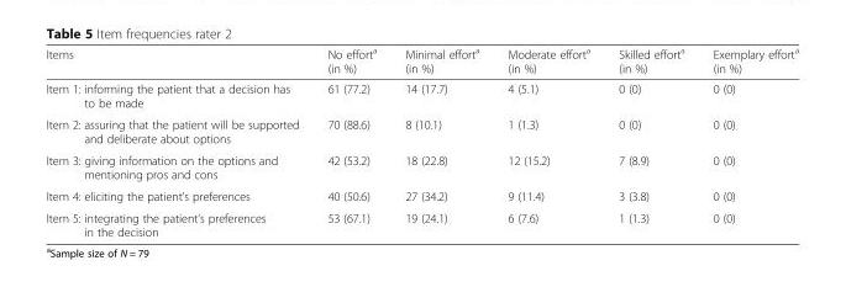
<table><thead><tr><td>Items</td><td>No effort<sup>a</sup> (in %)</td><td>Minimal effort<sup>a</sup> (in %)</td><td>Moderate effort<sup>a</sup> (in %)</td><td>Skilled effort<sup>a</sup> (in %)</td><td>Exemplary effort<sup>a</sup> (in %)</td></tr></thead><tbody><tr><td>Item 1: informing the patient that a decision has to be made</td><td>61 (77.2)</td><td>14 (17.7)</td><td>4 (5.1)</td><td>0 (0)</td><td>0 (0)</td></tr><tr><td>Item 2: assuring that the patient will be supported and deliberate about options</td><td>70 (88.6)</td><td>8 (10.1)</td><td>1 (1.3)</td><td>0 (0)</td><td>0 (0)</td></tr><tr><td>Item 3: giving information on the options and mentioning pros and cons</td><td>42 (53.2)</td><td>18 (22.8)</td><td>12 (15.2)</td><td>7 (8.9)</td><td>0 (0)</td></tr><tr><td>Item 4: eliciting the patient’s preferences</td><td>40 (50.6)</td><td>27 (34.2)</td><td>9 (11.4)</td><td>3 (3.8)</td><td>0 (0)</td></tr><tr><td>Item 5: integrating the patient’s preferences in the decision</td><td>53 (67.1)</td><td>19 (24.1)</td><td>6 (7.6)</td><td>1 (1.3)</td><td>0 (0)</td></tr></tbody></table>